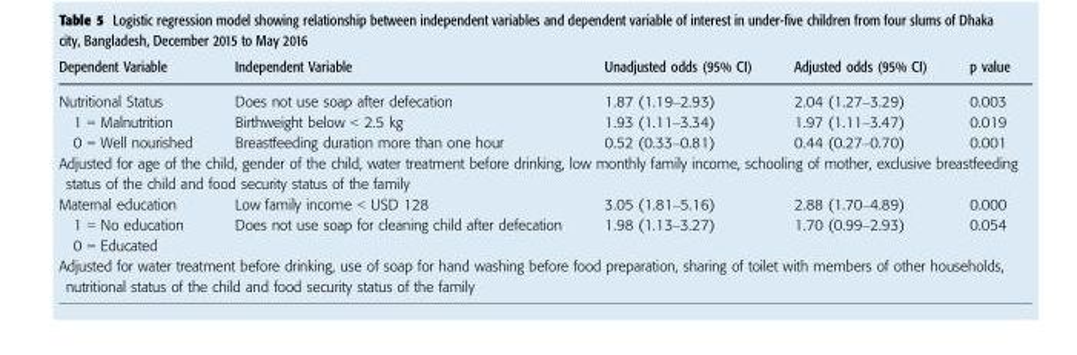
<table><thead><tr><td>Dependent Variable</td><td>Independent Variable</td><td>Unadjusted odds (95% CI)</td><td>Adjusted odds (95% CI)</td><td>p value</td></tr></thead><tbody><tr><td rowspan="3">Nutritional Status 1 = Malnutrition 0 = Well nourished</td><td>Does not use soap after defecation</td><td>1.87 (1.19–2.93)</td><td>2.04 (1.27–3.29)</td><td>0.003</td></tr><tr><td>Birthweight below &lt; 2.5 kg</td><td>1.93 (1.11–3.34)</td><td>1.97 (1.11–3.47)</td><td>0.019</td></tr><tr><td>Breastfeeding duration more than one hour</td><td>0.52 (0.33–0.81)</td><td>0.44 (0.27–0.70)</td><td>0.001</td></tr><tr><td colspan="5">Adjusted for age of the child, gender of the child, water treatment before drinking, low monthly family income, schooling of mother, exclusive breastfeeding status of the child and food security status of the family</td></tr><tr><td rowspan="2">Maternal education 1 = No education 0 = Educated</td><td>Low family income &lt; USD 128</td><td>3.05 (1.81–5.16)</td><td>2.88 (1.70–4.89)</td><td>0.000</td></tr><tr><td>Does not use soap for cleaning child after defecation</td><td>1.98 (1.13–3.27)</td><td>1.70 (0.99–2.93)</td><td>0.054</td></tr><tr><td colspan="5">Adjusted for water treatment before drinking, use of soap for hand washing before food preparation, sharing of toilet with members of other households, nutritional status of the child and food security status of the family</td></tr></tbody></table>